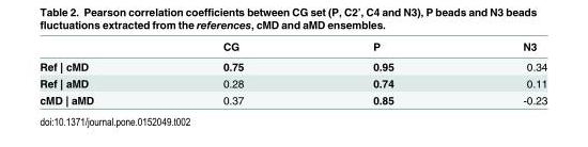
<table><thead><tr><td></td><td>CG</td><td>P</td><td>N3</td></tr></thead><tbody><tr><td>Ref | cMD</td><td>0.75</td><td>0.95</td><td>0.34</td></tr><tr><td>Ref | aMD</td><td>0.28</td><td>0.74</td><td>0.11</td></tr><tr><td>cMD | aMD</td><td>0.37</td><td>0.85</td><td>-0.23</td></tr></tbody></table>